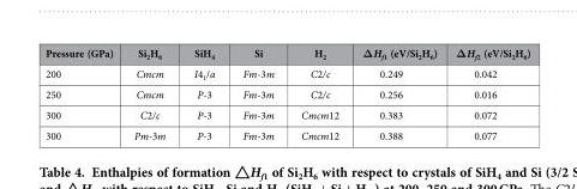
<table><thead><tr><td>Pressure (GPa)</td><td>Si<sub>2</sub>H<sub>6</sub></td><td>SiH<sub>4</sub></td><td>Si</td><td>H<sub>2</sub></td><td>Δ Hf1 (eV/Si2H6)</td><td>Δ H<sub>f2</sub> (eV/Si<sub>2</sub>H<sub>6</sub>)</td></tr></thead><tbody><tr><td>200</td><td>Cmcm</td><td>I4<sub>1</sub>/a</td><td>Fm-3m</td><td>C2/c</td><td>0.249</td><td>0.042</td></tr><tr><td>250</td><td>Cmcm</td><td>P-3</td><td>Fm-3m</td><td>C2/c</td><td>0.256</td><td>0.016</td></tr><tr><td>300</td><td>C2/c</td><td>P-3</td><td>Fm-3m</td><td>Cmcm12</td><td>0.383</td><td>0.072</td></tr><tr><td>300</td><td>Pm-3m</td><td>P-3</td><td>Fm-3m</td><td>Cmcm12</td><td>0.388</td><td>0.077</td></tr></tbody></table>